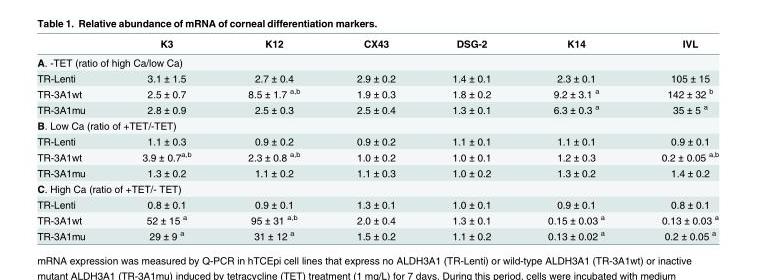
<table><thead><tr><td></td><td>K3</td><td>K12</td><td>CX43</td><td>DSG-2</td><td>K14</td><td>IVL</td></tr></thead><tbody><tr><td colspan="7">A. -TET (ratio of high Ca/low Ca)</td></tr><tr><td>TR-Lenti</td><td>3.1 ± 1.5</td><td>2.7 ± 0.4</td><td>2.9 ± 0.2</td><td>1.4 ± 0.1</td><td>2.3 ± 0.1</td><td>105 ± 15</td></tr><tr><td>TR-3A1wt</td><td>2.5 ± 0.7</td><td>8.5 ± 1.7 <sup>a,b</sup></td><td>1.9 ± 0.3</td><td>1.8 ± 0.2</td><td>9.2 ± 3.1 <sup>a</sup></td><td>142 ± 32 <sup>b</sup></td></tr><tr><td>TR-3A1mu</td><td>2.8 ± 0.9</td><td>2.5 ± 0.3</td><td>2.5 ± 0.4</td><td>1.3 ± 0.1</td><td>6.3 ± 0.3 <sup>a</sup></td><td>35 ± 5 <sup>a</sup></td></tr><tr><td colspan="7">B. Low Ca (ratio of +TET/-TET)</td></tr><tr><td>TR-Lenti</td><td>1.1 ± 0.3</td><td>0.9 ± 0.2</td><td>0.9 ± 0.2</td><td>1.1 ± 0.1</td><td>1.1 ± 0.1</td><td>0.9 ± 0.1</td></tr><tr><td>TR-3A1wt</td><td>3.9 ± 0.7<sup>a,b</sup></td><td>2.3 ± 0.8 <sup>a,b</sup></td><td>1.0 ± 0.2</td><td>1.0 ± 0.1</td><td>1.2 ± 0.3</td><td>0.2 ± 0.05 <sup>a,b</sup></td></tr><tr><td>TR-3A1mu</td><td>1.3 ± 0.2</td><td>1.1 ± 0.2</td><td>1.1 ± 0.3</td><td>1.0 ± 0.2</td><td>1.3 ± 0.2</td><td>1.4 ± 0.2</td></tr><tr><td colspan="7">C. High Ca (ratio of +TET/- TET)</td></tr><tr><td>TR-Lenti</td><td>0.8 ± 0.1</td><td>0.9 ± 0.1</td><td>1.3 ± 0.1</td><td>1.0 ± 0.1</td><td>0.9 ± 0.1</td><td>0.8 ± 0.1</td></tr><tr><td>TR-3A1wt</td><td>52 ± 15 <sup>a</sup></td><td>95 ± 31 <sup>a,b</sup></td><td>2.0 ± 0.4</td><td>1.3 ± 0.1</td><td>0.15 ± 0.03 <sup>a</sup></td><td>0.13 ± 0.03 <sup>a</sup></td></tr><tr><td>TR-3A1mu</td><td>29 ± 9 <sup>a</sup></td><td>31 ± 12 <sup>a</sup></td><td>1.5 ± 0.2</td><td>1.1 ± 0.2</td><td>0.13 ± 0.02 <sup>a</sup></td><td>0.2 ± 0.05 <sup>a</sup></td></tr></tbody></table>